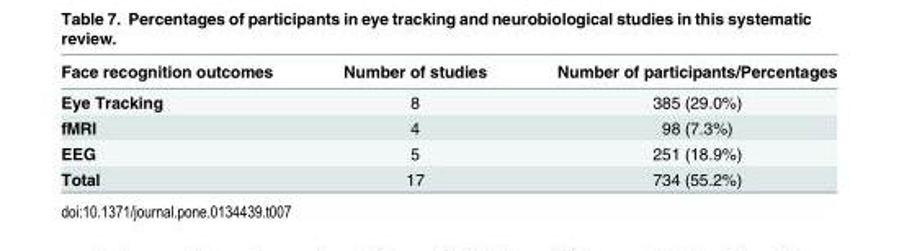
<table><thead><tr><td>Face recognition outcomes</td><td>Number of studies</td><td>Number of participants/Percentages</td></tr></thead><tbody><tr><td>Eye Tracking</td><td>8</td><td>385 (29.0%)</td></tr><tr><td>fMRI</td><td>4</td><td>98 (7.3%)</td></tr><tr><td>EEG</td><td>5</td><td>251 (18.9%)</td></tr><tr><td>Total</td><td>17</td><td>734 (55.2%)</td></tr></tbody></table>